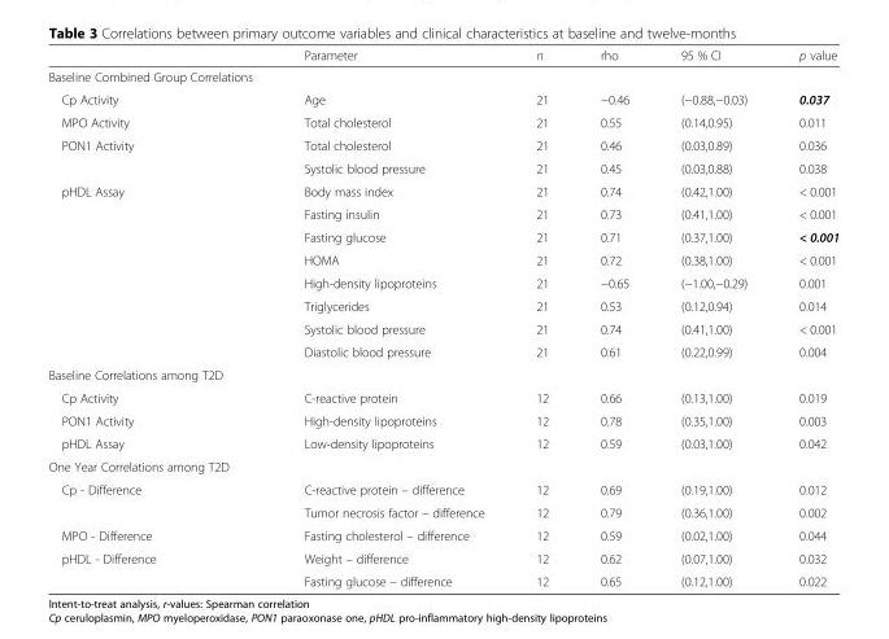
<table><thead><tr><td></td><td>Parameter</td><td>n</td><td>rho</td><td>95 % CI</td><td>p value</td></tr></thead><tbody><tr><td colspan="6">Baseline Combined Group Correlations</td></tr><tr><td>Cp Activity</td><td>Age</td><td>21</td><td>−0.46</td><td>(−0.88,−0.03)</td><td>0.037</td></tr><tr><td>MPO Activity</td><td>Total cholesterol</td><td>21</td><td>0.55</td><td>(0.14,0.95)</td><td>0.011</td></tr><tr><td rowspan="2">PON1 Activity</td><td>Total cholesterol</td><td>21</td><td>0.46</td><td>(0.03,0.89)</td><td>0.036</td></tr><tr><td>Systolic blood pressure</td><td>21</td><td>0.45</td><td>(0.03,0.88)</td><td>0.038</td></tr><tr><td rowspan="8">pHDL Assay</td><td>Body mass index</td><td>21</td><td>0.74</td><td>(0.42,1.00)</td><td>&lt; 0.001</td></tr><tr><td>Fasting insulin</td><td>21</td><td>0.73</td><td>(0.41,1.00)</td><td>&lt; 0.001</td></tr><tr><td>Fasting glucose</td><td>21</td><td>0.71</td><td>(0.37,1.00)</td><td>&lt; 0.001</td></tr><tr><td>HOMA</td><td>21</td><td>0.72</td><td>(0.38,1.00)</td><td>&lt; 0.001</td></tr><tr><td>High-density lipoproteins</td><td>21</td><td>−0.65</td><td>(−1.00,−0.29)</td><td>0.001</td></tr><tr><td>Triglycerides</td><td>21</td><td>0.53</td><td>(0.12,0.94)</td><td>0.014</td></tr><tr><td>Systolic blood pressure</td><td>21</td><td>0.74</td><td>(0.41,1.00)</td><td>&lt; 0.001</td></tr><tr><td>Diastolic blood pressure</td><td>21</td><td>0.61</td><td>(0.22,0.99)</td><td>0.004</td></tr><tr><td colspan="6">Baseline Correlations among T2D</td></tr><tr><td>Cp Activity</td><td>C-reactive protein</td><td>12</td><td>0.66</td><td>(0.13,1.00)</td><td>0.019</td></tr><tr><td>PON1 Activity</td><td>High-density lipoproteins</td><td>12</td><td>0.78</td><td>(0.35,1.00)</td><td>0.003</td></tr><tr><td>pHDL Assay</td><td>Low-density lipoproteins</td><td>12</td><td>0.59</td><td>(0.03,1.00)</td><td>0.042</td></tr><tr><td colspan="6">One Year Correlations among T2D</td></tr><tr><td rowspan="2">Cp - Difference</td><td>C-reactive protein – difference</td><td>12</td><td>0.69</td><td>(0.19,1.00)</td><td>0.012</td></tr><tr><td>Tumor necrosis factor – difference</td><td>12</td><td>0.79</td><td>(0.36,1.00)</td><td>0.002</td></tr><tr><td>MPO - Difference</td><td>Fasting cholesterol – difference</td><td>12</td><td>0.59</td><td>(0.02,1.00)</td><td>0.044</td></tr><tr><td rowspan="2">pHDL - Difference</td><td>Weight – difference</td><td>12</td><td>0.62</td><td>(0.07,1.00)</td><td>0.032</td></tr><tr><td>Fasting glucose – difference</td><td>12</td><td>0.65</td><td>(0.12,1.00)</td><td>0.022</td></tr></tbody></table>